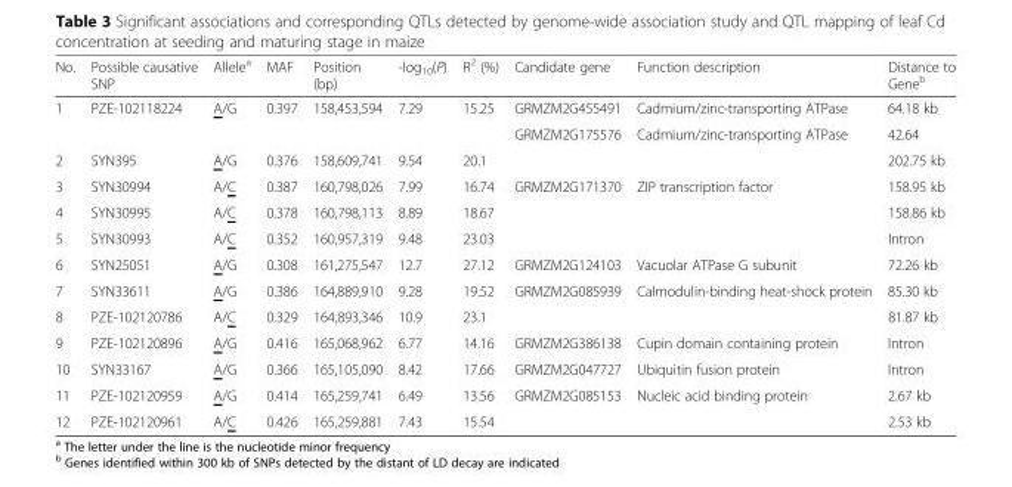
<table><thead><tr><td>No.</td><td>Possible causative SNP</td><td>Allele<sup>a</sup></td><td>MAF</td><td>Position (bp)</td><td>-log<sub>10</sub>(P)</td><td>R<sup>2</sup> (%)</td><td>Candidate gene</td><td>Function description</td><td>Distance to Gene<sup>b</sup></td></tr></thead><tbody><tr><td rowspan="2">1</td><td rowspan="2">PZE-102118224</td><td rowspan="2">A/G</td><td rowspan="2">0.397</td><td rowspan="2">158,453,594</td><td rowspan="2">7.29</td><td rowspan="2">15.25</td><td>GRMZM2G455491</td><td>Cadmium/zinc-transporting ATPase</td><td>64.18 kb</td></tr><tr><td rowspan="2">GRMZM2G175576</td><td rowspan="2">Cadmium/zinc-transporting ATPase</td><td>42.64</td></tr><tr><td>2</td><td>SYN395</td><td>A/G</td><td>0.376</td><td>158,609,741</td><td>9.54</td><td>20.1</td><td>202.75 kb</td></tr><tr><td>3</td><td>SYN30994</td><td>A/C</td><td>0.387</td><td>160,798,026</td><td>7.99</td><td>16.74</td><td rowspan="3">GRMZM2G171370</td><td rowspan="3">ZIP transcription factor</td><td>158.95 kb</td></tr><tr><td>4</td><td>SYN30995</td><td>A/C</td><td>0.378</td><td>160,798,113</td><td>8.89</td><td>18.67</td><td>158.86 kb</td></tr><tr><td>5</td><td>SYN30993</td><td>A/C</td><td>0.352</td><td>160,957,319</td><td>9.48</td><td>23.03</td><td>Intron</td></tr><tr><td>6</td><td>SYN25051</td><td>A/G</td><td>0.308</td><td>161,275,547</td><td>12.7</td><td>27.12</td><td>GRMZM2G124103</td><td>Vacuolar ATPase G subunit</td><td>72.26 kb</td></tr><tr><td>7</td><td>SYN33611</td><td>A/G</td><td>0.386</td><td>164,889,910</td><td>9.28</td><td>19.52</td><td rowspan="2">GRMZM2G085939</td><td rowspan="2">Calmodulin-binding heat-shock protein</td><td>85.30 kb</td></tr><tr><td>8</td><td>PZE-102120786</td><td>A/C</td><td>0.329</td><td>164,893,346</td><td>10.9</td><td>23.1</td><td>81.87 kb</td></tr><tr><td>9</td><td>PZE-102120896</td><td>A/G</td><td>0.416</td><td>165,068,962</td><td>6.77</td><td>14.16</td><td>GRMZM2G386138</td><td>Cupin domain containing protein</td><td>Intron</td></tr><tr><td>10</td><td>SYN33167</td><td>A/G</td><td>0.366</td><td>165,105,090</td><td>8.42</td><td>17.66</td><td>GRMZM2G047727</td><td>Ubiquitin fusion protein</td><td>Intron</td></tr><tr><td>11</td><td>PZE-102120959</td><td>A/G</td><td>0.414</td><td>165,259,741</td><td>6.49</td><td>13.56</td><td rowspan="2">GRMZM2G085153</td><td rowspan="2">Nucleic acid binding protein</td><td>2.67 kb</td></tr><tr><td>12</td><td>PZE-102120961</td><td>A/C</td><td>0.426</td><td>165,259,881</td><td>7.43</td><td>15.54</td><td>2.53 kb</td></tr></tbody></table>